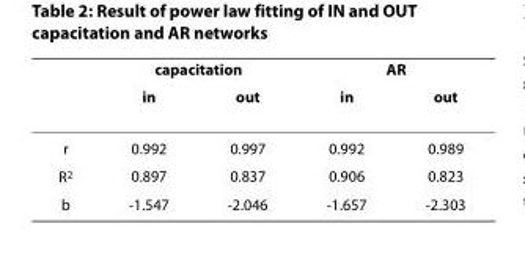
<table><thead><tr><td rowspan="2"></td><td colspan="2">capacitation</td><td colspan="2">AR</td></tr><tr><td>in</td><td>out</td><td>in</td><td>out</td></tr></thead><tbody><tr><td>r</td><td>0.992</td><td>0.997</td><td>0.992</td><td>0.989</td></tr><tr><td>R<sup>2</sup></td><td>0.897</td><td>0.837</td><td>0.906</td><td>0.823</td></tr><tr><td>b</td><td>-1.547</td><td>-2.046</td><td>-1.657</td><td>-2.303</td></tr></tbody></table>